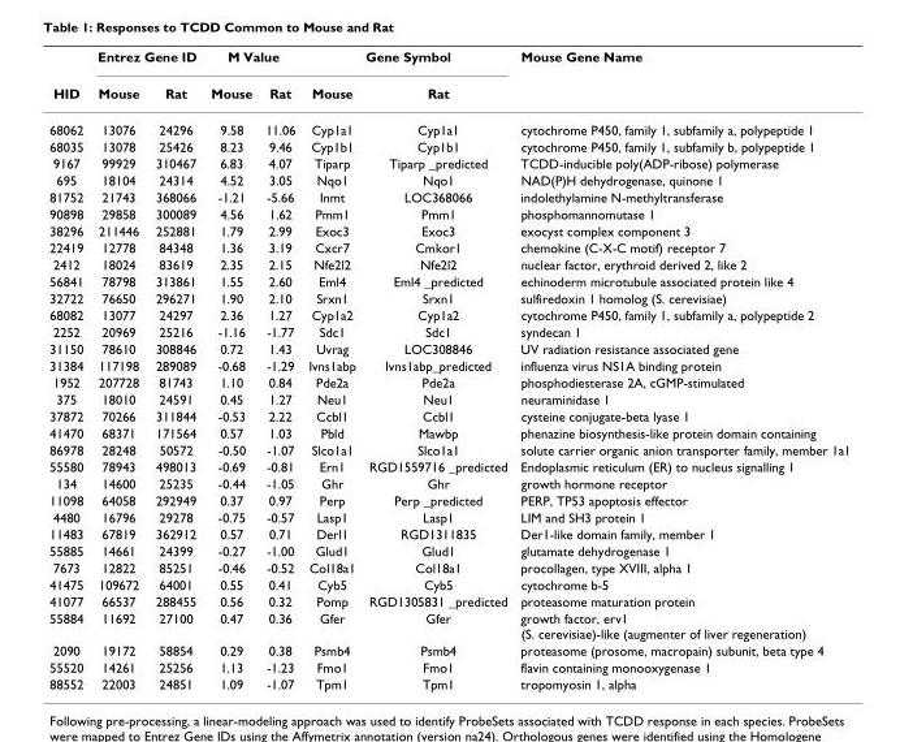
<table><thead><tr><td rowspan="2">HID</td><td colspan="2">Entrez Gene ID</td><td colspan="2">M Value</td><td colspan="2">Gene Symbol</td><td rowspan="2">Mouse Gene Name</td></tr><tr><td>Mouse</td><td>Rat</td><td>Mouse</td><td>Rat</td><td>Mouse</td><td>Rat</td></tr></thead><tbody><tr><td>68062</td><td>13076</td><td>24296</td><td>9.58</td><td>11.06</td><td>Cyp1a1</td><td>Cyp1a1</td><td>cytochrome P450, family 1, subfamily a, polypeptide 1</td></tr><tr><td>68035</td><td>13078</td><td>25426</td><td>8.23</td><td>9.46</td><td>Cyp1b1</td><td>Cyp1b1</td><td>cytochrome P450, family 1, subfamily b, polypeptide 1</td></tr><tr><td>9167</td><td>99929</td><td>310467</td><td>6.83</td><td>4.07</td><td>Tiparp</td><td>Tiparp _predicted</td><td>TCDD-inducible poly(ADP-ribose) polymerase</td></tr><tr><td>695</td><td>18104</td><td>24314</td><td>4.52</td><td>3.05</td><td>Nqo1</td><td>Nqo1</td><td>NAD(P)H dehydrogenase, quinone 1</td></tr><tr><td>81752</td><td>21743</td><td>368066</td><td>-1.21</td><td>-5.66</td><td>Inmt</td><td>LOC368066</td><td>indolethylamine N-methyltransferase</td></tr><tr><td>90898</td><td>29858</td><td>300089</td><td>4.56</td><td>1.62</td><td>Pmm1</td><td>Pmm1</td><td>phosphomannomutase 1</td></tr><tr><td>38296</td><td>211446</td><td>252881</td><td>1.79</td><td>2.99</td><td>Exoc3</td><td>Exoc3</td><td>exocyst complex component 3</td></tr><tr><td>22419</td><td>12778</td><td>84348</td><td>1.36</td><td>3.19</td><td>Cxcr7</td><td>Cmkor1</td><td>chemokine (C-X-C motif) receptor 7</td></tr><tr><td>2412</td><td>18024</td><td>83619</td><td>2.35</td><td>2.15</td><td>Nfe2l2</td><td>Nfe2l2</td><td>nuclear factor, erythroid derived 2, like 2</td></tr><tr><td>56841</td><td>78798</td><td>313861</td><td>1.55</td><td>2.60</td><td>Eml4</td><td>Eml4 _predicted</td><td>echinoderm microtubule associated protein like 4</td></tr><tr><td>32722</td><td>76650</td><td>296271</td><td>1.90</td><td>2.10</td><td>Srxn1</td><td>Srxn1</td><td>sulfiredoxin 1 homolog (S. cerevisiae)</td></tr><tr><td>68082</td><td>13077</td><td>24297</td><td>2.36</td><td>1.27</td><td>Cyp1a2</td><td>Cyp1a2</td><td>cytochrome P450, family 1, subfamily a, polypeptide 2</td></tr><tr><td>2252</td><td>20969</td><td>25216</td><td>-1.16</td><td>-1.77</td><td>Sdc1</td><td>Sdc1</td><td>syndecan 1</td></tr><tr><td>31150</td><td>78610</td><td>308846</td><td>0.72</td><td>1.43</td><td>Uvrag</td><td>LOC308846</td><td>UV radiation resistance associated gene</td></tr><tr><td>31384</td><td>117198</td><td>289089</td><td>-0.68</td><td>-1.29</td><td>Ivns1abp</td><td>Ivns1abp_predicted</td><td>influenza virus NS1A binding protein</td></tr><tr><td>1952</td><td>207728</td><td>81743</td><td>1.10</td><td>0.84</td><td>Pde2a</td><td>Pde2a</td><td>phosphodiesterase 2A, cGMP-stimulated</td></tr><tr><td>375</td><td>18010</td><td>24591</td><td>0.45</td><td>1.27</td><td>Neu1</td><td>Neu1</td><td>neuraminidase 1</td></tr><tr><td>37872</td><td>70266</td><td>311844</td><td>-0.53</td><td>2.22</td><td>Ccbl1</td><td>Ccbl1</td><td>cysteine conjugate-beta lyase 1</td></tr><tr><td>41470</td><td>68371</td><td>171564</td><td>0.57</td><td>1.03</td><td>Pbld</td><td>Mawbp</td><td>phenazine biosynthesis-like protein domain containing</td></tr><tr><td>86978</td><td>28248</td><td>50572</td><td>-0.50</td><td>-1.07</td><td>Slco1a1</td><td>Slco1a1</td><td>solute carrier organic anion transporter family, member 1a1</td></tr><tr><td>55580</td><td>78943</td><td>498013</td><td>-0.69</td><td>-0.81</td><td>Ern1</td><td>RGD1559716 _predicted</td><td>Endoplasmic reticulum (ER) to nucleus signalling 1</td></tr><tr><td>134</td><td>14600</td><td>25235</td><td>-0.44</td><td>-1.05</td><td>Ghr</td><td>Ghr</td><td>growth hormone receptor</td></tr><tr><td>11098</td><td>64058</td><td>292949</td><td>0.37</td><td>0.97</td><td>Perp</td><td>Perp _predicted</td><td>PERP, TP53 apoptosis effector</td></tr><tr><td>4480</td><td>16796</td><td>29278</td><td>-0.75</td><td>-0.57</td><td>Lasp1</td><td>Lasp1</td><td>LIM and SH3 protein 1</td></tr><tr><td>11483</td><td>67819</td><td>362912</td><td>0.57</td><td>0.71</td><td>Derl1</td><td>RGD1311835</td><td>Der1-like domain family, member 1</td></tr><tr><td>55885</td><td>14661</td><td>24399</td><td>-0.27</td><td>-1.00</td><td>Glud1</td><td>Glud1</td><td>glutamate dehydrogenase 1</td></tr><tr><td>7673</td><td>12822</td><td>85251</td><td>-0.46</td><td>-0.52</td><td>Col18a1</td><td>Col18a1</td><td>procollagen, type XVIII, alpha 1</td></tr><tr><td>41475</td><td>109672</td><td>64001</td><td>0.55</td><td>0.41</td><td>Cyb5</td><td>Cyb5</td><td>cytochrome b-5</td></tr><tr><td>41077</td><td>66537</td><td>288455</td><td>0.56</td><td>0.32</td><td>Pomp</td><td>RGD1305831 _predicted</td><td>proteasome maturation protein</td></tr><tr><td>55884</td><td>11692</td><td>27100</td><td>0.47</td><td>0.36</td><td>Gfer</td><td>Gfer</td><td>growth factor, erv1 (S. cerevisiae)-like (augmenter of liver regeneration)</td></tr><tr><td>2090</td><td>19172</td><td>58854</td><td>0.29</td><td>0.38</td><td>Psmb4</td><td>Psmb4</td><td>proteasome (prosome, macropain) subunit, beta type 4</td></tr><tr><td>55520</td><td>14261</td><td>25256</td><td>1.13</td><td>-1.23</td><td>Fmo1</td><td>Fmo1</td><td>flavin containing monooxygenase 1</td></tr><tr><td>88552</td><td>22003</td><td>24851</td><td>1.09</td><td>-1.07</td><td>Tpm1</td><td>Tpm1</td><td>tropomyosin 1, alpha</td></tr></tbody></table>